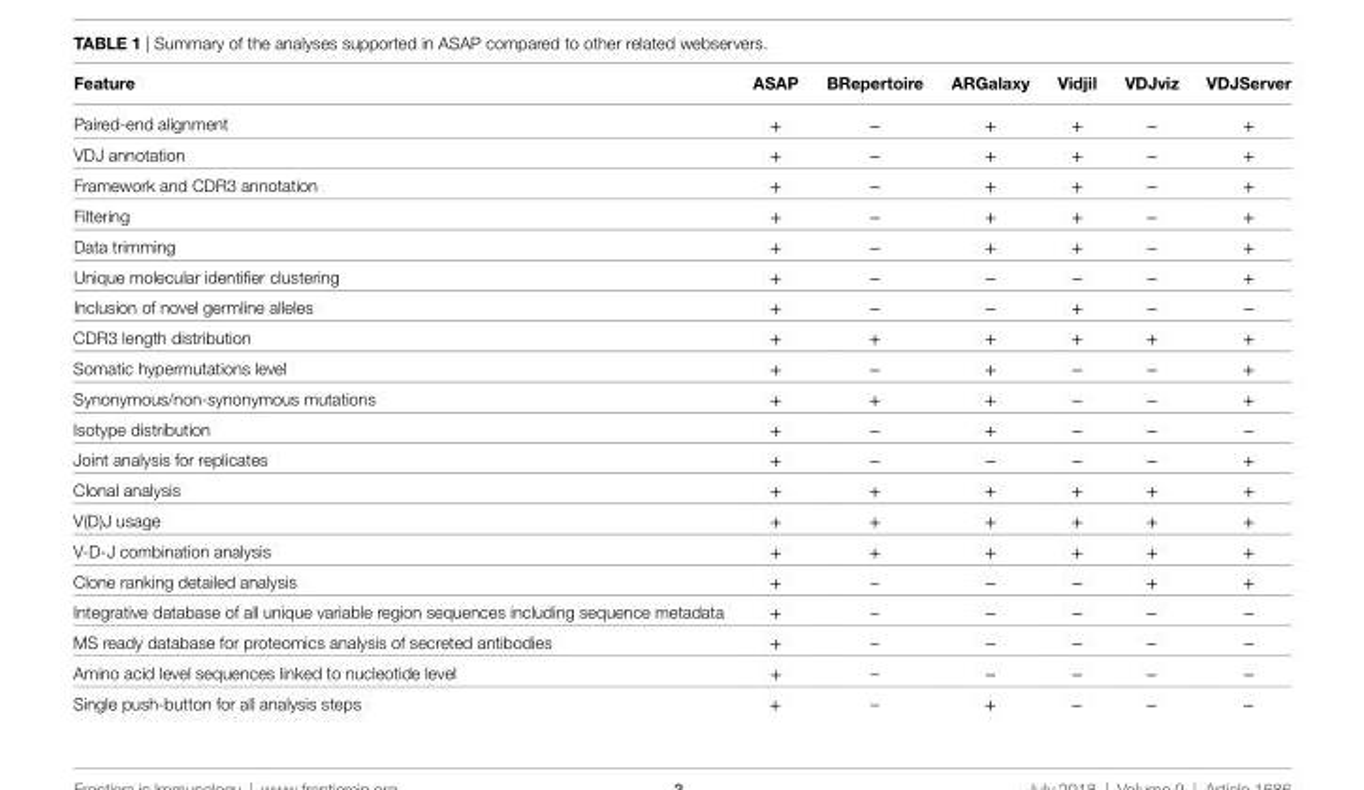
<table><thead><tr><td>Feature</td><td>ASAp</td><td>BRepertoire</td><td>ARgalaxy</td><td>Vidjil</td><td>VDJviz</td><td>VDJServer</td></tr></thead><tbody><tr><td>Paired-end alignment</td><td>+</td><td>−</td><td>+</td><td>+</td><td>−</td><td>+</td></tr><tr><td>VDJ annotation</td><td>+</td><td>−</td><td>+</td><td>+</td><td>−</td><td>+</td></tr><tr><td>Framework and CDR3 annotation</td><td>+</td><td>−</td><td>+</td><td>+</td><td>−</td><td>+</td></tr><tr><td>Filtering</td><td>+</td><td>−</td><td>+</td><td>+</td><td>−</td><td>+</td></tr><tr><td>Data trimming</td><td>+</td><td>−</td><td>+</td><td>+</td><td>−</td><td>+</td></tr><tr><td>Unique molecular identifier clustering</td><td>+</td><td>−</td><td>−</td><td>−</td><td>−</td><td>+</td></tr><tr><td>Inclusion of novel germline alleles</td><td>+</td><td>−</td><td>−</td><td>+</td><td>−</td><td>−</td></tr><tr><td>CDR3 length distribution</td><td>+</td><td>+</td><td>+</td><td>+</td><td>+</td><td>+</td></tr><tr><td>Somatic hypermutations level</td><td>+</td><td>−</td><td>+</td><td>−</td><td>−</td><td>+</td></tr><tr><td>Synonymous/non-synonymous mutations</td><td>+</td><td>+</td><td>+</td><td>−</td><td>−</td><td>+</td></tr><tr><td>Isotype distribution</td><td>+</td><td>−</td><td>+</td><td>−</td><td>−</td><td>−</td></tr><tr><td>Joint analysis for replicates</td><td>+</td><td>−</td><td>−</td><td>−</td><td>−</td><td>+</td></tr><tr><td>Clonal analysis</td><td>+</td><td>+</td><td>+</td><td>+</td><td>+</td><td>+</td></tr><tr><td>V(D)J usage</td><td>+</td><td>+</td><td>+</td><td>+</td><td>+</td><td>+</td></tr><tr><td>V-D-J combination analysis</td><td>+</td><td>+</td><td>+</td><td>+</td><td>+</td><td>+</td></tr><tr><td>Clone ranking detailed analysis</td><td>+</td><td>–</td><td>−</td><td>−</td><td>+</td><td>+</td></tr><tr><td>Integrative database of all unique variable region sequences including sequence metadata</td><td>+</td><td>–</td><td>−</td><td>−</td><td>−</td><td>−</td></tr><tr><td>MS ready database for proteomics analysis of secreted antibodies</td><td>+</td><td>–</td><td>−</td><td>−</td><td>−</td><td>−</td></tr><tr><td>Amino acid level sequences linked to nucleotide level</td><td>+</td><td>–</td><td>−</td><td>−</td><td>−</td><td>−</td></tr><tr><td>Single push-button for all analysis steps</td><td>+</td><td>–</td><td>+</td><td>−</td><td>−</td><td>−</td></tr></tbody></table>